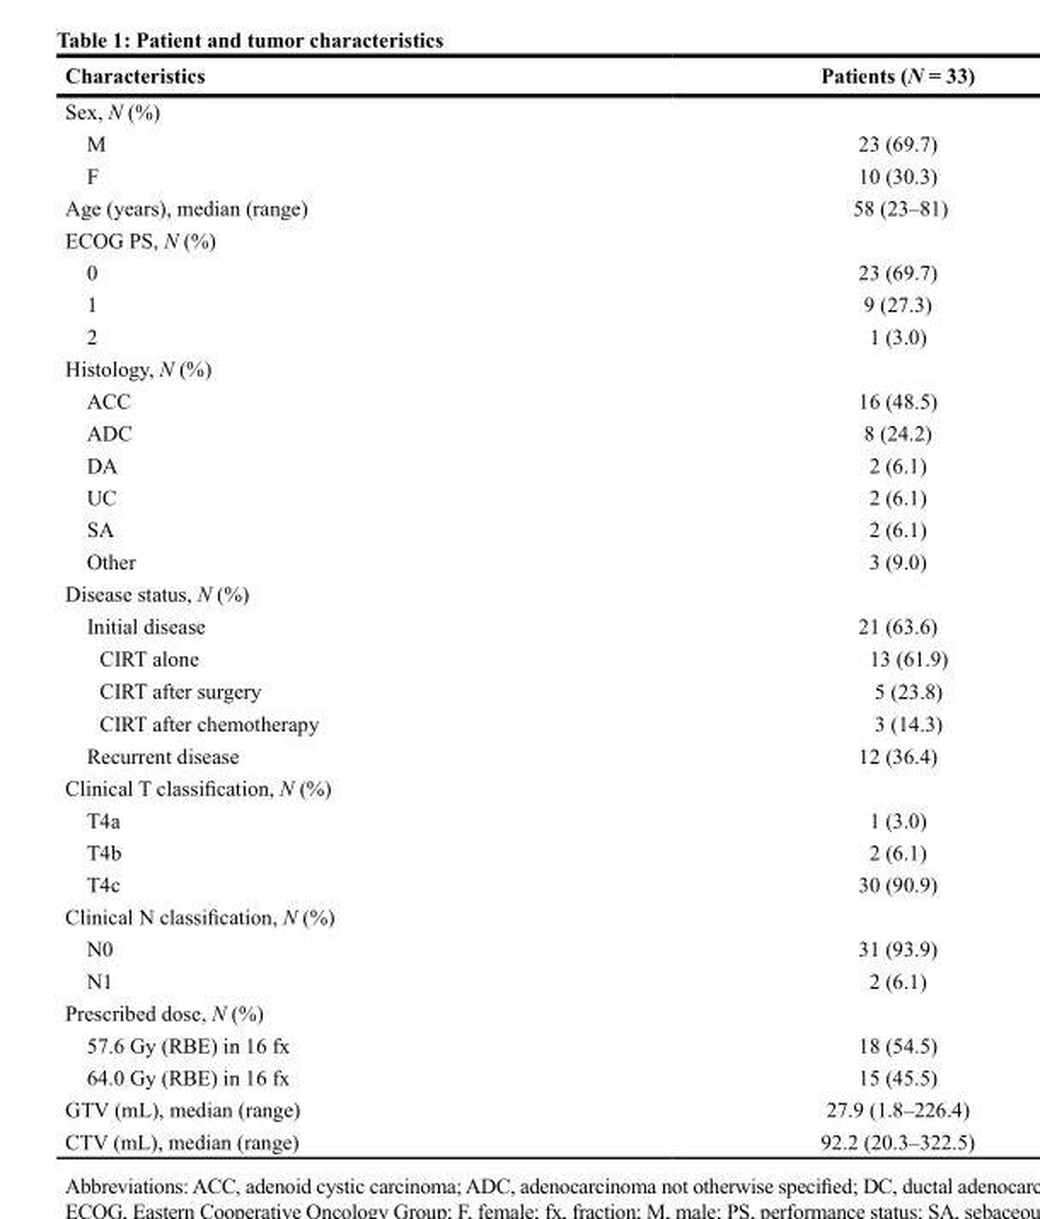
<table><thead><tr><td>Characteristics</td><td>Patients (N = 33)</td></tr></thead><tbody><tr><td colspan="2">Sex, N (%)</td></tr><tr><td>M</td><td>23 (69.7)</td></tr><tr><td>F</td><td>10 (30.3)</td></tr><tr><td>Age (years), median (range)</td><td>58 (23–81)</td></tr><tr><td colspan="2">ECOG PS, N (%)</td></tr><tr><td>0</td><td>23 (69.7)</td></tr><tr><td>1</td><td>9 (27.3)</td></tr><tr><td>2</td><td>1 (3.0)</td></tr><tr><td colspan="2">Histology, N (%)</td></tr><tr><td>ACC</td><td>16 (48.5)</td></tr><tr><td>ADC</td><td>8 (24.2)</td></tr><tr><td>DA</td><td>2 (6.1)</td></tr><tr><td>UC</td><td>2 (6.1)</td></tr><tr><td>SA</td><td>2 (6.1)</td></tr><tr><td>Other</td><td>3 (9.0)</td></tr><tr><td colspan="2">Disease status, N (%)</td></tr><tr><td>Initial disease</td><td>21 (63.6)</td></tr><tr><td>CIRT alone</td><td>13 (61.9)</td></tr><tr><td>CIRT after surgery</td><td>5 (23.8)</td></tr><tr><td>CIRT after chemotherapy</td><td>3 (14.3)</td></tr><tr><td>Recurrent disease</td><td>12 (36.4)</td></tr><tr><td colspan="2">Clinical T classification, N (%)</td></tr><tr><td>T4a</td><td>1 (3.0)</td></tr><tr><td>T4b</td><td>2 (6.1)</td></tr><tr><td>T4c</td><td>30 (90.9)</td></tr><tr><td colspan="2">Clinical N classification, N (%)</td></tr><tr><td>N0</td><td>31 (93.9)</td></tr><tr><td>N1</td><td>2 (6.1)</td></tr><tr><td colspan="2">Prescribed dose, N (%)</td></tr><tr><td>57.6 Gy (RBE) in 16 fx</td><td>18 (54.5)</td></tr><tr><td>64.0 Gy (RBE) in 16 fx</td><td>15 (45.5)</td></tr><tr><td>GTV (mL), median (range)</td><td>27.9 (1.8–226.4)</td></tr><tr><td>CTV (mL), median (range)</td><td>92.2 (20.3–322.5)</td></tr></tbody></table>